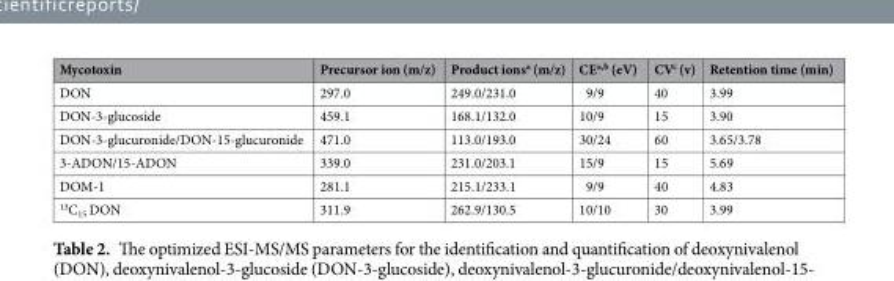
<table><thead><tr><td>Mycotoxin</td><td>Precursor ion (m/z)</td><td>Product ions<sup>a</sup> (m/z)</td><td>CE<sup>a,b</sup> (eV)</td><td>CV<sup>c</sup> (v)</td><td>Retention time (min)</td></tr></thead><tbody><tr><td>DON</td><td>297.0</td><td>249.0/231.0</td><td>9/9</td><td>40</td><td>3.99</td></tr><tr><td>DON-3-glucoside</td><td>459.1</td><td>168.1/132.0</td><td>10/9</td><td>15</td><td>3.90</td></tr><tr><td>DON-3-glucuronide/DON-15-glucuronide</td><td>471.0</td><td>113.0/193.0</td><td>30/24</td><td>60</td><td>3.65/3.78</td></tr><tr><td>3-ADON/15-ADON</td><td>339.0</td><td>231.0/203.1</td><td>15/9</td><td>15</td><td>5.69</td></tr><tr><td>DOM-1</td><td>281.1</td><td>215.1/233.1</td><td>9/9</td><td>40</td><td>4.83</td></tr><tr><td><sup>13</sup>C<sub>15</sub> DON</td><td>311.9</td><td>262.9/130.5</td><td>10/10</td><td>30</td><td>3.99</td></tr></tbody></table>